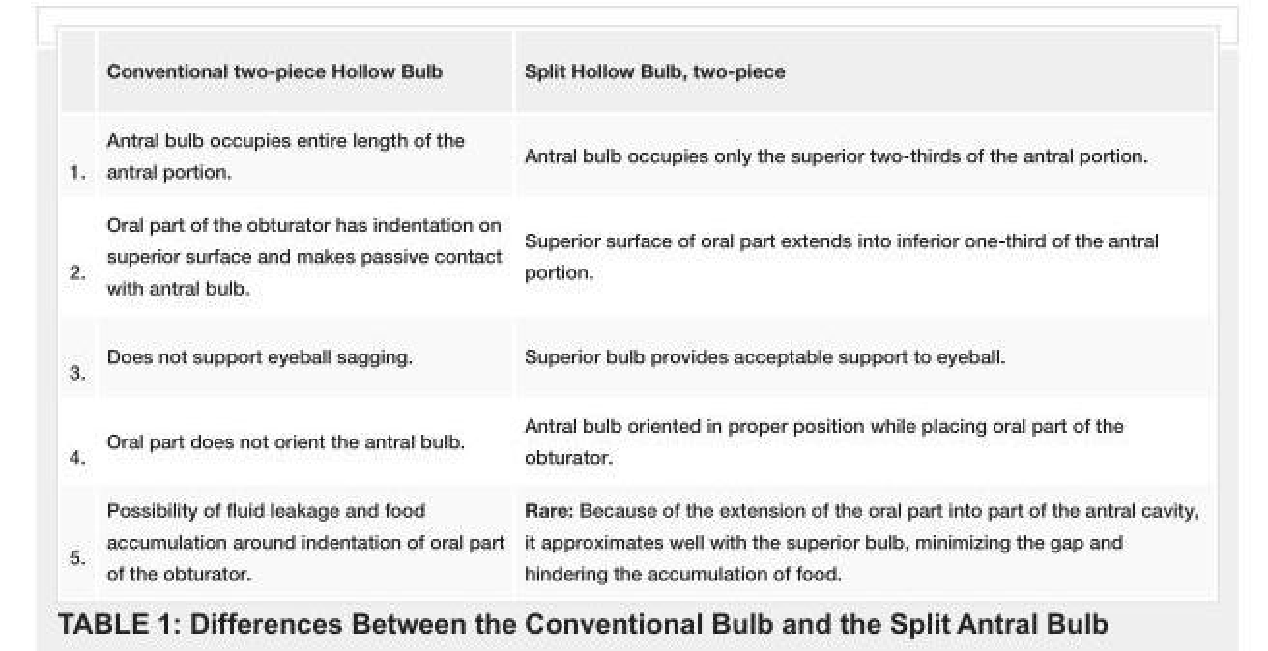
<table><thead><tr><td></td><td>Conventional two-piece Hollow Bulb</td><td>Split Hollow Bulb, two-piece</td></tr></thead><tbody><tr><td>1.</td><td>Antral bulb occupies entire length of the antral portion.</td><td>Antral bulb occupies only the superior two-thirds of the antral portion.</td></tr><tr><td>2.</td><td>Oral part of the obturator has indentation on superior surface and makes passive contact with antral bulb.</td><td>Superior surface of oral part extends into inferior one-third of the antral portion.</td></tr><tr><td>3.</td><td>Does not support eyeball sagging.</td><td>Superior bulb provides acceptable support to eyeball.</td></tr><tr><td>4.</td><td>Oral part does not orient the antral bulb.</td><td>Antral bulb oriented in proper position while placing oral part of the obturator.</td></tr><tr><td>5.</td><td>Possibility of fluid leakage and food accumulation around indentation of oral part of the obturator.</td><td>Rare: Because of the extension of the oral part into part of the antral cavity, it approximates well with the superior bulb, minimizing the gap and hindering the accumulation of food.</td></tr></tbody></table>